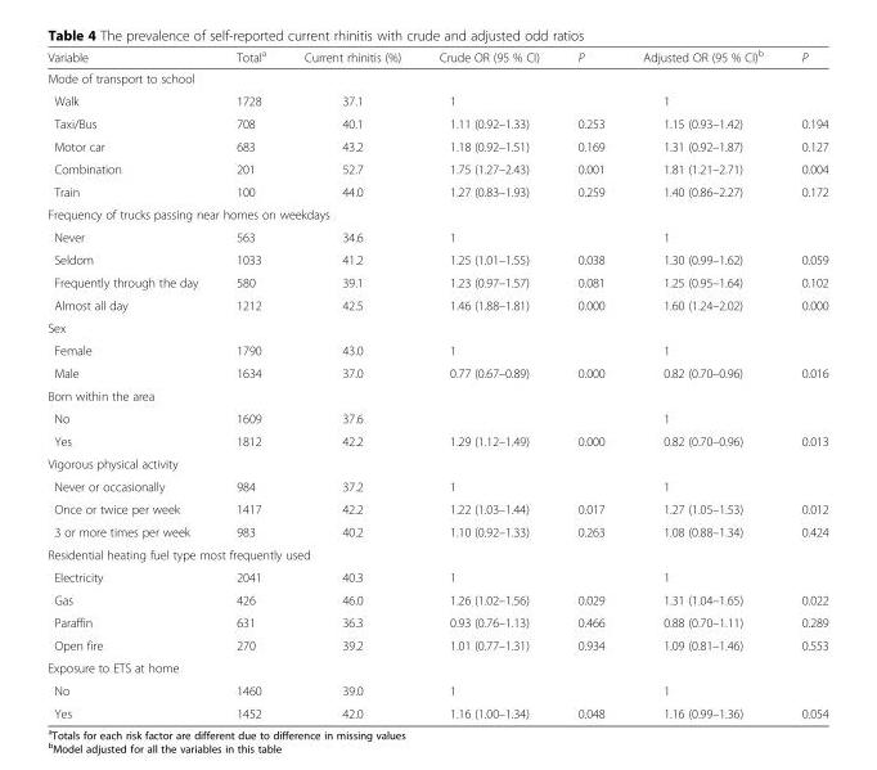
<table><thead><tr><td>Variable</td><td>Total<sup>a</sup></td><td>Current rhinitis (%)</td><td>Crude OR (95 % CI)</td><td>P</td><td>Adjusted OR (95 % CI)<sup>b</sup></td><td>P</td></tr></thead><tbody><tr><td colspan="7">Mode of transport to school</td></tr><tr><td>Walk</td><td>1728</td><td>37.1</td><td>1</td><td></td><td>1</td><td></td></tr><tr><td>Taxi/Bus</td><td>708</td><td>40.1</td><td>1.11 (0.92–1.33)</td><td>0.253</td><td>1.15 (0.93–1.42)</td><td>0.194</td></tr><tr><td>Motor car</td><td>683</td><td>43.2</td><td>1.18 (0.92–1.51)</td><td>0.169</td><td>1.31 (0.92–1.87)</td><td>0.127</td></tr><tr><td>Combination</td><td>201</td><td>52.7</td><td>1.75 (1.27–2.43)</td><td>0.001</td><td>1.81 (1.21–2.71)</td><td>0.004</td></tr><tr><td>Train</td><td>100</td><td>44.0</td><td>1.27 (0.83–1.93)</td><td>0.259</td><td>1.40 (0.86–2.27)</td><td>0.172</td></tr><tr><td colspan="7">Frequency of trucks passing near homes on weekdays</td></tr><tr><td>Never</td><td>563</td><td>34.6</td><td>1</td><td></td><td>1</td><td></td></tr><tr><td>Seldom</td><td>1033</td><td>41.2</td><td>1.25 (1.01–1.55)</td><td>0.038</td><td>1.30 (0.99–1.62)</td><td>0.059</td></tr><tr><td>Frequently through the day</td><td>580</td><td>39.1</td><td>1.23 (0.97–1.57)</td><td>0.081</td><td>1.25 (0.95–1.64)</td><td>0.102</td></tr><tr><td>Almost all day</td><td>1212</td><td>42.5</td><td>1.46 (1.88–1.81)</td><td>0.000</td><td>1.60 (1.24–2.02)</td><td>0.000</td></tr><tr><td colspan="7">Sex</td></tr><tr><td>Female</td><td>1790</td><td>43.0</td><td>1</td><td></td><td>1</td><td></td></tr><tr><td>Male</td><td>1634</td><td>37.0</td><td>0.77 (0.67–0.89)</td><td>0.000</td><td>0.82 (0.70–0.96)</td><td>0.016</td></tr><tr><td colspan="7">Born within the area</td></tr><tr><td>No</td><td>1609</td><td>37.6</td><td></td><td></td><td>1</td><td></td></tr><tr><td>Yes</td><td>1812</td><td>42.2</td><td>1.29 (1.12–1.49)</td><td>0.000</td><td>0.82 (0.70–0.96)</td><td>0.013</td></tr><tr><td colspan="7">Vigorous physical activity</td></tr><tr><td>Never or occasionally</td><td>984</td><td>37.2</td><td>1</td><td></td><td>1</td><td></td></tr><tr><td>Once or twice per week</td><td>1417</td><td>42.2</td><td>1.22 (1.03–1.44)</td><td>0.017</td><td>1.27 (1.05–1.53)</td><td>0.012</td></tr><tr><td>3 or more times per week</td><td>983</td><td>40.2</td><td>1.10 (0.92–1.33)</td><td>0.263</td><td>1.08 (0.88–1.34)</td><td>0.424</td></tr><tr><td colspan="7">Residential heating fuel type most frequently used</td></tr><tr><td>Electricity</td><td>2041</td><td>40.3</td><td>1</td><td></td><td>1</td><td></td></tr><tr><td>Gas</td><td>426</td><td>46.0</td><td>1.26 (1.02–1.56)</td><td>0.029</td><td>1.31 (1.04–1.65)</td><td>0.022</td></tr><tr><td>Paraffin</td><td>631</td><td>36.3</td><td>0.93 (0.76–1.13)</td><td>0.466</td><td>0.88 (0.70–1.11)</td><td>0.289</td></tr><tr><td>Open fire</td><td>270</td><td>39.2</td><td>1.01 (0.77–1.31)</td><td>0.934</td><td>1.09 (0.81–1.46)</td><td>0.553</td></tr><tr><td colspan="7">Exposure to ETS at home</td></tr><tr><td>No</td><td>1460</td><td>39.0</td><td>1</td><td></td><td>1</td><td></td></tr><tr><td>Yes</td><td>1452</td><td>42.0</td><td>1.16 (1.00–1.34)</td><td>0.048</td><td>1.16 (0.99–1.36)</td><td>0.054</td></tr></tbody></table>